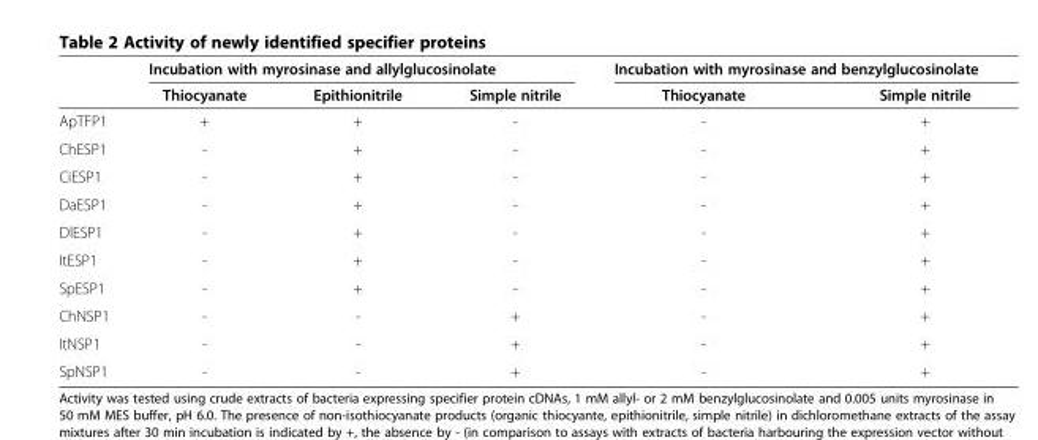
<table><thead><tr><td rowspan="2"></td><td colspan="3">Incubation with myrosinase and allylglucosinolate</td><td colspan="2">Incubation with myrosinase and benzylglucosinolate</td></tr><tr><td>Thiocyanate</td><td>Epithionitrile</td><td>Simple nitrile</td><td>Thiocyanate</td><td>Simple nitrile</td></tr></thead><tbody><tr><td>ApTFP1</td><td>+</td><td>+</td><td>-</td><td>-</td><td>+</td></tr><tr><td>ChESP1</td><td>-</td><td>+</td><td>-</td><td>-</td><td>+</td></tr><tr><td>CiESP1</td><td>-</td><td>+</td><td>-</td><td>-</td><td>+</td></tr><tr><td>DaESP1</td><td>-</td><td>+</td><td>-</td><td>-</td><td>+</td></tr><tr><td>DlESP1</td><td>-</td><td>+</td><td>-</td><td>-</td><td>+</td></tr><tr><td>ItESP1</td><td>-</td><td>+</td><td>-</td><td>-</td><td>+</td></tr><tr><td>SpESP1</td><td>-</td><td>+</td><td>-</td><td>-</td><td>+</td></tr><tr><td>ChNSP1</td><td>-</td><td>-</td><td>+</td><td>-</td><td>+</td></tr><tr><td>ItNSP1</td><td>-</td><td>-</td><td>+</td><td>-</td><td>+</td></tr><tr><td>SpNSP1</td><td>-</td><td>-</td><td>+</td><td>-</td><td>+</td></tr></tbody></table>